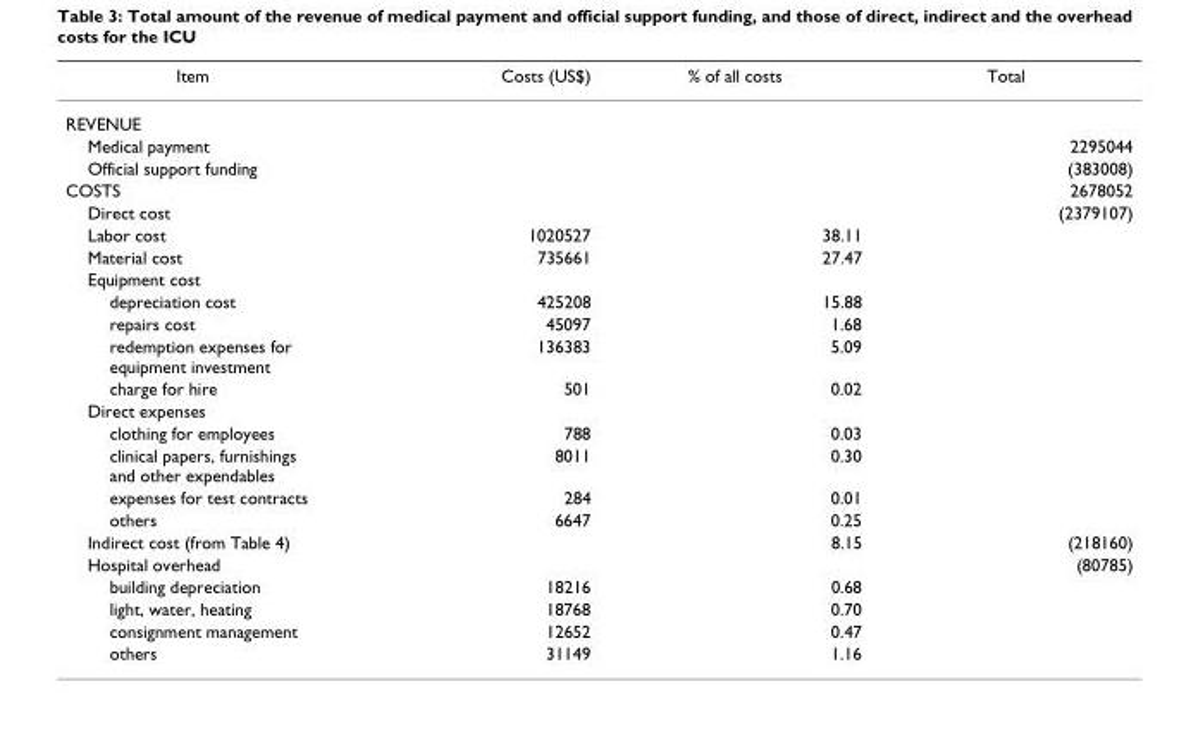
<table><thead><tr><td>Item</td><td>Costs (US$)</td><td>% of all costs</td><td>Total</td></tr></thead><tbody><tr><td colspan="4">REVENUE</td></tr><tr><td>Medical payment</td><td></td><td></td><td>2295044</td></tr><tr><td>Official support funding</td><td></td><td></td><td>(383008)</td></tr><tr><td>COSTS</td><td></td><td></td><td>2678052</td></tr><tr><td>Direct cost</td><td></td><td></td><td>(2379107)</td></tr><tr><td>Labor cost</td><td>1020527</td><td>38.11</td><td></td></tr><tr><td>Material cost</td><td>735661</td><td>27.47</td><td></td></tr><tr><td colspan="4">Equipment cost</td></tr><tr><td>depreciation cost</td><td>425208</td><td>15.88</td><td></td></tr><tr><td>repairs cost</td><td>45097</td><td>1.68</td><td></td></tr><tr><td>redemption expenses for equipment investment</td><td>136383</td><td>5.09</td><td></td></tr><tr><td>charge for hire</td><td>501</td><td>0.02</td><td></td></tr><tr><td colspan="4">Direct expenses</td></tr><tr><td>clothing for employees</td><td>788</td><td>0.03</td><td></td></tr><tr><td>clinical papers, furnishings and other expendables</td><td>8011</td><td>0.30</td><td></td></tr><tr><td>expenses for test contracts</td><td>284</td><td>0.01</td><td></td></tr><tr><td>others</td><td>6647</td><td>0.25</td><td></td></tr><tr><td>Indirect cost (from Table 4)</td><td></td><td>8.15</td><td>(218160)</td></tr><tr><td>Hospital overhead</td><td></td><td></td><td>(80785)</td></tr><tr><td>building depreciation</td><td>18216</td><td>0.68</td><td></td></tr><tr><td>light, water, heating</td><td>18768</td><td>0.70</td><td></td></tr><tr><td>consignment management</td><td>12652</td><td>0.47</td><td></td></tr><tr><td>others</td><td>31149</td><td>1.16</td><td></td></tr></tbody></table>